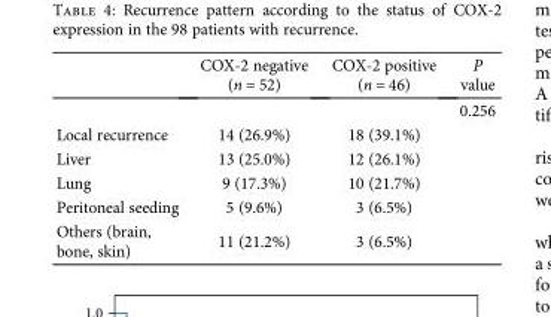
<table><thead><tr><td></td><td>COX-2 negative (n = 52)</td><td>COX-2 positive (n = 46)</td><td>P value</td></tr></thead><tbody><tr><td></td><td></td><td></td><td>0.256</td></tr><tr><td>Local recurrence</td><td>14 (26.9%)</td><td>18 (39.1%)</td><td rowspan="5"></td></tr><tr><td>Liver</td><td>13 (25.0%)</td><td>12 (26.1%)</td></tr><tr><td>Lung</td><td>9 (17.3%)</td><td>10 (21.7%)</td></tr><tr><td>Peritoneal seeding</td><td>5 (9.6%)</td><td>3 (6.5%)</td></tr><tr><td>Others (brain, bone, skin)</td><td>11 (21.2%)</td><td>3 (6.5%)</td></tr></tbody></table>